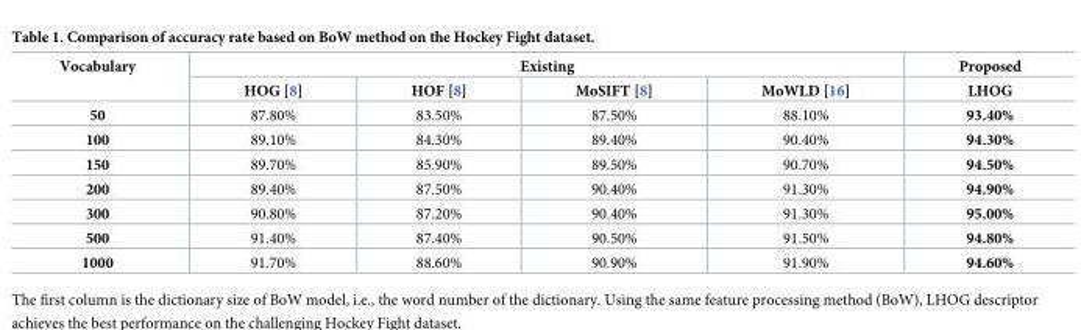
<table><thead><tr><td rowspan="2">Vocabulary</td><td colspan="4">Existing</td><td rowspan="2">Proposed LHOG</td></tr><tr><td>HOG [8]</td><td>HOF [8]</td><td>MoSIFT [8]</td><td>MoWLD [16]</td></tr></thead><tbody><tr><td>50</td><td>87.80%</td><td>83.50%</td><td>87.50%</td><td>88.10%</td><td>93.40%</td></tr><tr><td>100</td><td>89.10%</td><td>84.30%</td><td>89.40%</td><td>90.40%</td><td>94.30%</td></tr><tr><td>150</td><td>89.70%</td><td>85.90%</td><td>89.50%</td><td>90.70%</td><td>94.50%</td></tr><tr><td>200</td><td>89.40%</td><td>87.50%</td><td>90.40%</td><td>91.30%</td><td>94.90%</td></tr><tr><td>300</td><td>90.80%</td><td>87.20%</td><td>90.40%</td><td>91.30%</td><td>95.00%</td></tr><tr><td>500</td><td>91.40%</td><td>87.40%</td><td>90.50%</td><td>91.50%</td><td>94.80%</td></tr><tr><td>1000</td><td>91.70%</td><td>88.60%</td><td>90.90%</td><td>91.90%</td><td>94.60%</td></tr></tbody></table>